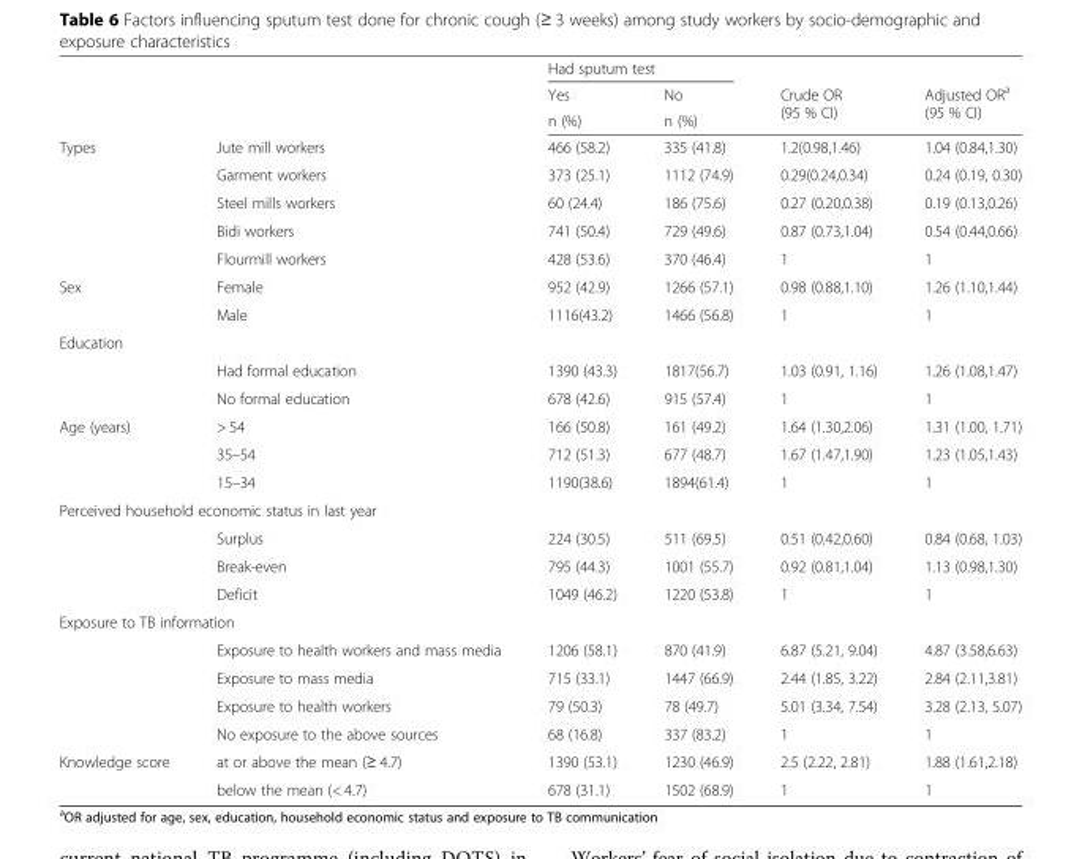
<table><thead><tr><td rowspan="3"></td><td rowspan="3"></td><td colspan="2">Had sputum test</td><td rowspan="3">Crude OR (95 % CI)</td><td rowspan="3">Adjusted OR<sup>a</sup> (95 % CI)</td></tr><tr><td rowspan="2">Yes n (%)</td><td rowspan="2">No n (%)</td></tr><tr></tr></thead><tbody><tr><td rowspan="5">Types</td><td>Jute mill workers</td><td>466 (58.2)</td><td>335 (41.8)</td><td>1.2(0.98,1.46)</td><td>1.04 (0.84,1.30)</td></tr><tr><td>Garment workers</td><td>373 (25.1)</td><td>1112 (74.9)</td><td>0.29(0.24,0.34)</td><td>0.24 (0.19, 0.30)</td></tr><tr><td>Steel mills workers</td><td>60 (24.4)</td><td>186 (75.6)</td><td>0.27 (0.20,0.38)</td><td>0.19 (0.13,0.26)</td></tr><tr><td>Bidi workers</td><td>741 (50.4)</td><td>729 (49.6)</td><td>0.87 (0.73,1.04)</td><td>0.54 (0.44,0.66)</td></tr><tr><td>Flourmill workers</td><td>428 (53.6)</td><td>370 (46.4)</td><td>1</td><td>1</td></tr><tr><td rowspan="2">Sex</td><td>Female</td><td>952 (42.9)</td><td>1266 (57.1)</td><td>0.98 (0.88,1.10)</td><td>1.26 (1.10,1.44)</td></tr><tr><td>Male</td><td>1116(43.2)</td><td>1466 (56.8)</td><td>1</td><td>1</td></tr><tr><td colspan="6">Education</td></tr><tr><td></td><td>Had formal education</td><td>1390 (43.3)</td><td>1817(56.7)</td><td>1.03 (0.91, 1.16)</td><td>1.26 (1.08,1.47)</td></tr><tr><td></td><td>No formal education</td><td>678 (42.6)</td><td>915 (57.4)</td><td>1</td><td>1</td></tr><tr><td rowspan="3">Age (years)</td><td>&gt; 54</td><td>166 (50.8)</td><td>161 (49.2)</td><td>1.64 (1.30,2.06)</td><td>1.31 (1.00, 1.71)</td></tr><tr><td>35–54</td><td>712 (51.3)</td><td>677 (48.7)</td><td>1.67 (1.47,1.90)</td><td>1.23 (1.05,1.43)</td></tr><tr><td>15–34</td><td>1190(38.6)</td><td>1894(61.4)</td><td>1</td><td>1</td></tr><tr><td colspan="6">Perceived household economic status in last year</td></tr><tr><td></td><td>Surplus</td><td>224 (30.5)</td><td>511 (69.5)</td><td>0.51 (0.42,0.60)</td><td>0.84 (0.68, 1.03)</td></tr><tr><td></td><td>Break-even</td><td>795 (44.3)</td><td>1001 (55.7)</td><td>0.92 (0.81,1.04)</td><td>1.13 (0.98,1.30)</td></tr><tr><td></td><td>Deficit</td><td>1049 (46.2)</td><td>1220 (53.8)</td><td>1</td><td>1</td></tr><tr><td colspan="6">Exposure to TB information</td></tr><tr><td></td><td>Exposure to health workers and mass media</td><td>1206 (58.1)</td><td>870 (41.9)</td><td>6.87 (5.21, 9.04)</td><td>4.87 (3.58,6.63)</td></tr><tr><td></td><td>Exposure to mass media</td><td>715 (33.1)</td><td>1447 (66.9)</td><td>2.44 (1.85, 3.22)</td><td>2.84 (2.11,3.81)</td></tr><tr><td></td><td>Exposure to health workers</td><td>79 (50.3)</td><td>78 (49.7)</td><td>5.01 (3.34, 7.54)</td><td>3.28 (2.13, 5.07)</td></tr><tr><td></td><td>No exposure to the above sources</td><td>68 (16.8)</td><td>337 (83.2)</td><td>1</td><td>1</td></tr><tr><td rowspan="2">Knowledge score</td><td>at or above the mean (≥ 4.7)</td><td>1390 (53.1)</td><td>1230 (46.9)</td><td>2.5 (2.22, 2.81)</td><td>1.88 (1.61,2.18)</td></tr><tr><td>below the mean (&lt; 4.7)</td><td>678 (31.1)</td><td>1502 (68.9)</td><td>1</td><td>1</td></tr></tbody></table>